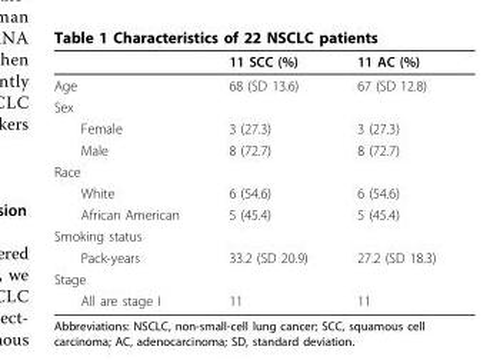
<table><thead><tr><td></td><td>11 SCC (%)</td><td>11 AC (%)</td></tr></thead><tbody><tr><td>Age</td><td>68 (SD 13.6)</td><td>67 (SD 12.8)</td></tr><tr><td colspan="3">Sex</td></tr><tr><td>Female</td><td>3 (27.3)</td><td>3 (27.3)</td></tr><tr><td>Male</td><td>8 (72.7)</td><td>8 (72.7)</td></tr><tr><td colspan="3">Race</td></tr><tr><td>White</td><td>6 (54.6)</td><td>6 (54.6)</td></tr><tr><td>African American</td><td>5 (45.4)</td><td>5 (45.4)</td></tr><tr><td colspan="3">Smoking status</td></tr><tr><td>Pack-years</td><td>33.2 (SD 20.9)</td><td>27.2 (SD 18.3)</td></tr><tr><td colspan="3">Stage</td></tr><tr><td>All are stage I</td><td>11</td><td>11</td></tr></tbody></table>